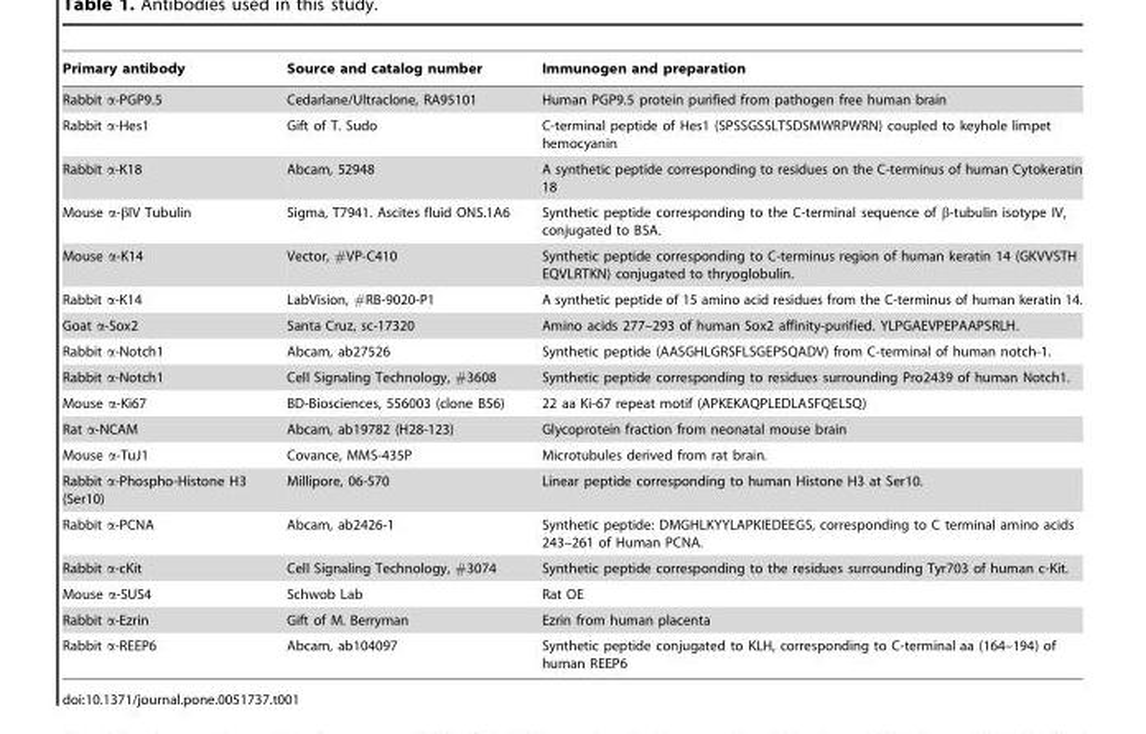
<table><thead><tr><td>Primary antibody</td><td>Source and catalog number</td><td>Immunogen and preparation</td></tr></thead><tbody><tr><td>Rabbit α-PGP9.5</td><td>Cedarlane/Ultraclone, RA95101</td><td>Human PGP9.5 protein purified from pathogen free human brain</td></tr><tr><td>Rabbit α-Hes1</td><td>Gift of T. Sudo</td><td>C-terminal peptide of Hes1 (SPSSGSSLTSDSMWRPWRN) coupled to keyhole limpet hemocyanin</td></tr><tr><td>Rabbit α-K18</td><td>Abcam, 52948</td><td>A synthetic peptide corresponding to residues on the C-terminus of human Cytokeratin 18</td></tr><tr><td>Mouse α-βIV Tubulin</td><td>Sigma, T7941. Ascites fluid ONS.1A6</td><td>Synthetic peptide corresponding to the C-terminal sequence of β-tubulin isotype IV, conjugated to BSA.</td></tr><tr><td>Mouse α-K14</td><td>Vector, #VP-C410</td><td>Synthetic peptide corresponding to C-terminus region of human keratin 14 (GKVVSTH EQVLRTKN) conjugated to thryoglobulin.</td></tr><tr><td>Rabbit α-K14</td><td>LabVision, #RB-9020-P1</td><td>A synthetic peptide of 15 amino acid residues from the C-terminus of human keratin 14.</td></tr><tr><td>Goat α-Sox2</td><td>Santa Cruz, sc-17320</td><td>Amino acids 277–293 of human Sox2 affinity-purified. YLPGAEVPEPAAPSRLH.</td></tr><tr><td>Rabbit α-Notch1</td><td>Abcam, ab27526</td><td>Synthetic peptide (AASGHLGRSFLSGEPSQADV) from C-terminal of human notch-1.</td></tr><tr><td>Rabbit α-Notch1</td><td>Cell Signaling Technology, #3608</td><td>Synthetic peptide corresponding to residues surrounding Pro2439 of human Notch1.</td></tr><tr><td>Mouse α-Ki67</td><td>BD-Biosciences, 556003 (clone B56)</td><td>22 aa Ki-67 repeat motif (APKEKAQPLEDLASFQELSQ)</td></tr><tr><td>Rat α-NCAM</td><td>Abcam, ab19782 (H28-123)</td><td>Glycoprotein fraction from neonatal mouse brain</td></tr><tr><td>Mouse α-TuJ1</td><td>Covance, MMS-435P</td><td>Microtubules derived from rat brain.</td></tr><tr><td>Rabbit α-Phospho-Histone H3 (Ser10)</td><td>Millipore, 06-570</td><td>Linear peptide corresponding to human Histone H3 at Ser10.</td></tr><tr><td>Rabbit α-PCNA</td><td>Abcam, ab2426-1</td><td>Synthetic peptide: DMGHLKYYLAPKIEDEEGS, corresponding to C terminal amino acids 243–261 of Human PCNA.</td></tr><tr><td>Rabbit α-cKit</td><td>Cell Signaling Technology, #3074</td><td>Synthetic peptide corresponding to the residues surrounding Tyr703 of human c-Kit.</td></tr><tr><td>Mouse α-SUS4</td><td>Schwob Lab</td><td>Rat OE</td></tr><tr><td>Rabbit α-Ezrin</td><td>Gift of M. Berryman</td><td>Ezrin from human placenta</td></tr><tr><td>Rabbit α-REEP6</td><td>Abcam, ab104097</td><td>Synthetic peptide conjugated to KLH, corresponding to C-terminal aa (164–194) of human REEP6</td></tr></tbody></table>